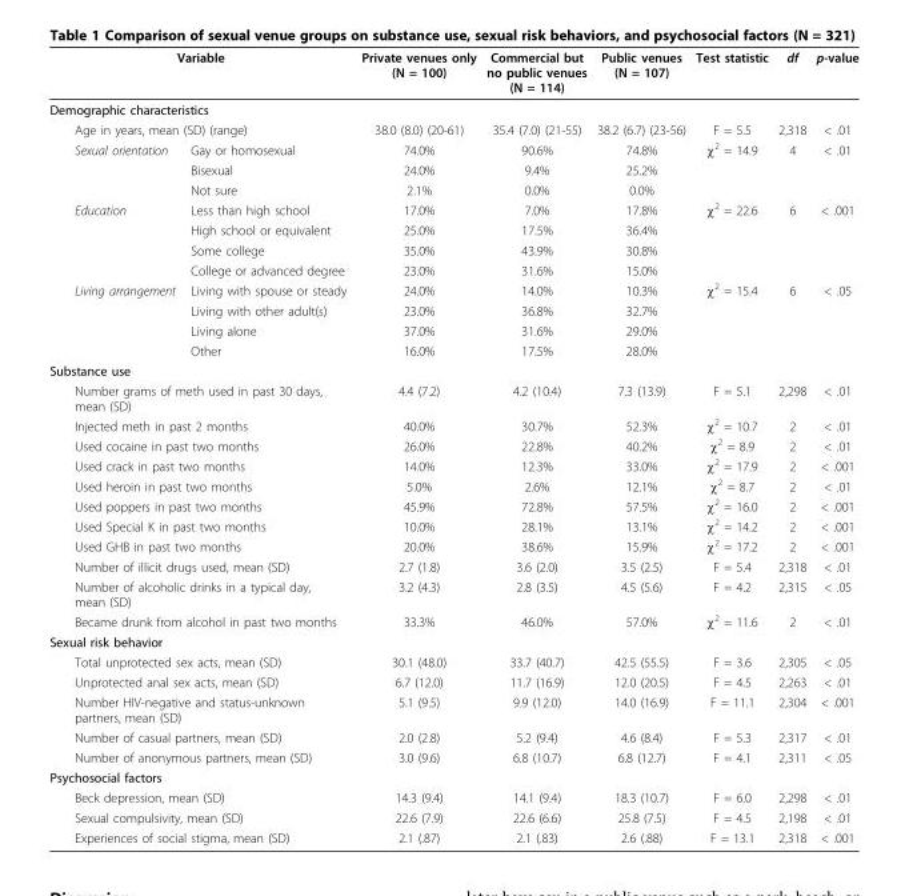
<table><thead><tr><td rowspan="3" colspan="2">Variable Demographic characteristics Age in years, mean (SD) (range)</td><td rowspan="4">Private venues only (N = 100) 38.0 (8.0) (20-61) 74.0%</td><td rowspan="4">Commercial but no public venues (N = 114) 35.4 (7.0) (21-55) 90.6%</td><td rowspan="4">Public venues (N = 107) 38.2 (6.7) (23-56) 74.8%</td><td rowspan="4">Test statistic F = 5.5 χ<sup>2</sup> = 14.9</td><td rowspan="4">df 2,318 4</td><td rowspan="4">p-value &lt; .01 &lt; .01</td></tr><tr></tr><tr></tr><tr><td>Sexual orientation</td><td>Gay or homosexual</td></tr></thead><tbody><tr><td></td><td>Bisexual</td><td>24.0%</td><td>9.4%</td><td>25.2%</td><td></td><td></td><td></td></tr><tr><td></td><td>Not sure</td><td>2.1%</td><td>0.0%</td><td>0.0%</td><td></td><td></td><td></td></tr><tr><td rowspan="4">Education</td><td>Less than high school</td><td>17.0%</td><td>7.0%</td><td>17.8%</td><td>χ<sup>2</sup> = 22.6</td><td>6</td><td>&lt; .001</td></tr><tr><td>High school or equivalent</td><td>25.0%</td><td>17.5%</td><td>36.4%</td><td></td><td></td><td></td></tr><tr><td>Some college</td><td>35.0%</td><td>43.9%</td><td>30.8%</td><td></td><td></td><td></td></tr><tr><td>College or advanced degree</td><td>23.0%</td><td>31.6%</td><td>15.0%</td><td></td><td></td><td></td></tr><tr><td rowspan="4">Living arrangement</td><td>Living with spouse or steady</td><td>24.0%</td><td>14.0%</td><td>10.3%</td><td>χ<sup>2</sup> = 15.4</td><td>6</td><td>&lt; .05</td></tr><tr><td>Living with other adult(s)</td><td>23.0%</td><td>36.8%</td><td>32.7%</td><td></td><td></td><td></td></tr><tr><td>Living alone</td><td>37.0%</td><td>31.6%</td><td>29.0%</td><td></td><td></td><td></td></tr><tr><td>Other</td><td>16.0%</td><td>17.5%</td><td>28.0%</td><td></td><td></td><td></td></tr><tr><td colspan="8">Substance use</td></tr><tr><td colspan="2">Number grams of meth used in past 30 days, mean (SD)</td><td>4.4 (7.2)</td><td>4.2 (10.4)</td><td>7.3 (13.9)</td><td>F = 5.1</td><td>2,298</td><td>&lt; .01</td></tr><tr><td colspan="2">Injected meth in past 2 months</td><td>40.0%</td><td>30.7%</td><td>52.3%</td><td>χ<sup>2</sup> = 10.7</td><td>2</td><td>&lt; .01</td></tr><tr><td colspan="2">Used cocaine in past two months</td><td>26.0%</td><td>22.8%</td><td>40.2%</td><td>χ<sup>2</sup> = 8.9</td><td>2</td><td>&lt; .01</td></tr><tr><td colspan="2">Used crack in past two months</td><td>14.0%</td><td>12.3%</td><td>33.0%</td><td>χ<sup>2</sup> = 17.9</td><td>2</td><td>&lt; .001</td></tr><tr><td colspan="2">Used heroin in past two months</td><td>5.0%</td><td>2.6%</td><td>12.1%</td><td>χ<sup>2</sup> = 8.7</td><td>2</td><td>&lt; .01</td></tr><tr><td colspan="2">Used poppers in past two months</td><td>45.9%</td><td>72.8%</td><td>57.5%</td><td>χ<sup>2</sup> = 16.0</td><td>2</td><td>&lt; .001</td></tr><tr><td colspan="2">Used Special K in past two months</td><td>10.0%</td><td>28.1%</td><td>13.1%</td><td>χ<sup>2</sup> = 14.2</td><td>2</td><td>&lt; .001</td></tr><tr><td colspan="2">Used GHB in past two months</td><td>20.0%</td><td>38.6%</td><td>15.9%</td><td>χ<sup>2</sup> = 17.2</td><td>2</td><td>&lt; .001</td></tr><tr><td colspan="2">Number of illicit drugs used, mean (SD)</td><td>2.7 (1.8)</td><td>3.6 (2.0)</td><td>3.5 (2.5)</td><td>F = 5.4</td><td>2,318</td><td>&lt; .01</td></tr><tr><td colspan="2">Number of alcoholic drinks in a typical day, mean (SD)</td><td>3.2 (4.3)</td><td>2.8 (3.5)</td><td>4.5 (5.6)</td><td>F = 4.2</td><td>2,315</td><td>&lt; .05</td></tr><tr><td colspan="2">Became drunk from alcohol in past two months</td><td>33.3%</td><td>46.0%</td><td>57.0%</td><td>χ<sup>2</sup> = 11.6</td><td>2</td><td>&lt; .01</td></tr><tr><td colspan="8">Sexual risk behavior</td></tr><tr><td colspan="2">Total unprotected sex acts, mean (SD)</td><td>30.1 (48.0)</td><td>33.7 (40.7)</td><td>42.5 (55.5)</td><td>F = 3.6</td><td>2,305</td><td>&lt; .05</td></tr><tr><td colspan="2">Unprotected anal sex acts, mean (SD)</td><td>6.7 (12.0)</td><td>11.7 (16.9)</td><td>12.0 (20.5)</td><td>F = 4.5</td><td>2,263</td><td>&lt; .01</td></tr><tr><td colspan="2">Number HIV-negative and status-unknown partners, mean (SD)</td><td>5.1 (9.5)</td><td>9.9 (12.0)</td><td>14.0 (16.9)</td><td>F = 11.1</td><td>2,304</td><td>&lt; .001</td></tr><tr><td colspan="2">Number of casual partners, mean (SD)</td><td>2.0 (2.8)</td><td>5.2 (9.4)</td><td>4.6 (8.4)</td><td>F = 5.3</td><td>2,317</td><td>&lt; .01</td></tr><tr><td colspan="2">Number of anonymous partners, mean (SD)</td><td>3.0 (9.6)</td><td>6.8 (10.7)</td><td>6.8 (12.7)</td><td>F = 4.1</td><td>2,311</td><td>&lt; .05</td></tr><tr><td colspan="8">Psychosocial factors</td></tr><tr><td colspan="2">Beck depression, mean (SD)</td><td>14.3 (9.4)</td><td>14.1 (9.4)</td><td>18.3 (10.7)</td><td>F = 6.0</td><td>2,298</td><td>&lt; .01</td></tr><tr><td colspan="2">Sexual compulsivity, mean (SD)</td><td>22.6 (7.9)</td><td>22.6 (6.6)</td><td>25.8 (7.5)</td><td>F = 4.5</td><td>2,198</td><td>&lt; .01</td></tr><tr><td colspan="2">Experiences of social stigma, mean (SD)</td><td>2.1 (.87)</td><td>2.1 (.83)</td><td>2.6 (.88)</td><td>F = 13.1</td><td>2,318</td><td>&lt; .001</td></tr></tbody></table>